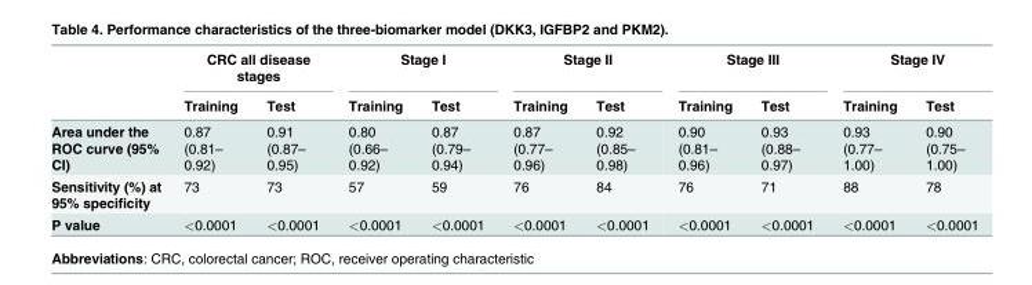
<table><thead><tr><td rowspan="2"></td><td colspan="2">CRC all disease stages</td><td colspan="2">Stage I</td><td colspan="2">Stage II</td><td colspan="2">Stage III</td><td colspan="2">Stage IV</td></tr><tr><td>Training</td><td>Test</td><td>Training</td><td>Test</td><td>Training</td><td>Test</td><td>Training</td><td>Test</td><td>Training</td><td>Test</td></tr></thead><tbody><tr><td>Area under the ROC curve (95% CI)</td><td>0.87 (0.81– 0.92)</td><td>0.91 (0.87– 0.95)</td><td>0.80 (0.66– 0.92)</td><td>0.87 (0.79– 0.94)</td><td>0.87 (0.77– 0.96)</td><td>0.92 (0.85– 0.98)</td><td>0.90 (0.81– 0.96)</td><td>0.93 (0.88– 0.97)</td><td>0.93 (0.77– 1.00)</td><td>0.90 (0.75– 1.00)</td></tr><tr><td>Sensitivity (%) at 95% specificity</td><td>73</td><td>73</td><td>57</td><td>59</td><td>76</td><td>84</td><td>76</td><td>71</td><td>88</td><td>78</td></tr><tr><td>P value</td><td>&lt;0.0001</td><td>&lt;0.0001</td><td>&lt;0.0001</td><td>&lt;0.0001</td><td>&lt;0.0001</td><td>&lt;0.0001</td><td>&lt;0.0001</td><td>&lt;0.0001</td><td>&lt;0.0001</td><td>&lt;0.0001</td></tr></tbody></table>